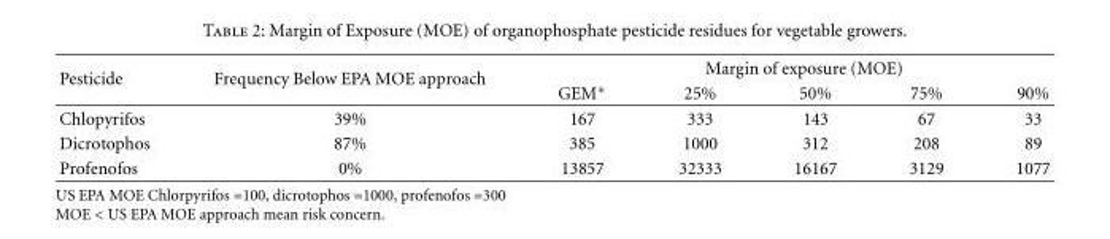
<table><thead><tr><td rowspan="2">Pesticide</td><td rowspan="2">Frequency Below EPA MOE approach</td><td colspan="5">Margin of exposure (MOE)</td></tr><tr><td>GEM∗</td><td>25%</td><td>50%</td><td>75%</td><td>90%</td></tr></thead><tbody><tr><td>Chlopyrifos</td><td>39%</td><td>167</td><td>333</td><td>143</td><td>67</td><td>33</td></tr><tr><td>Dicrotophos</td><td>87%</td><td>385</td><td>1000</td><td>312</td><td>208</td><td>89</td></tr><tr><td>Profenofos</td><td>0%</td><td>13857</td><td>32333</td><td>16167</td><td>3129</td><td>1077</td></tr></tbody></table>